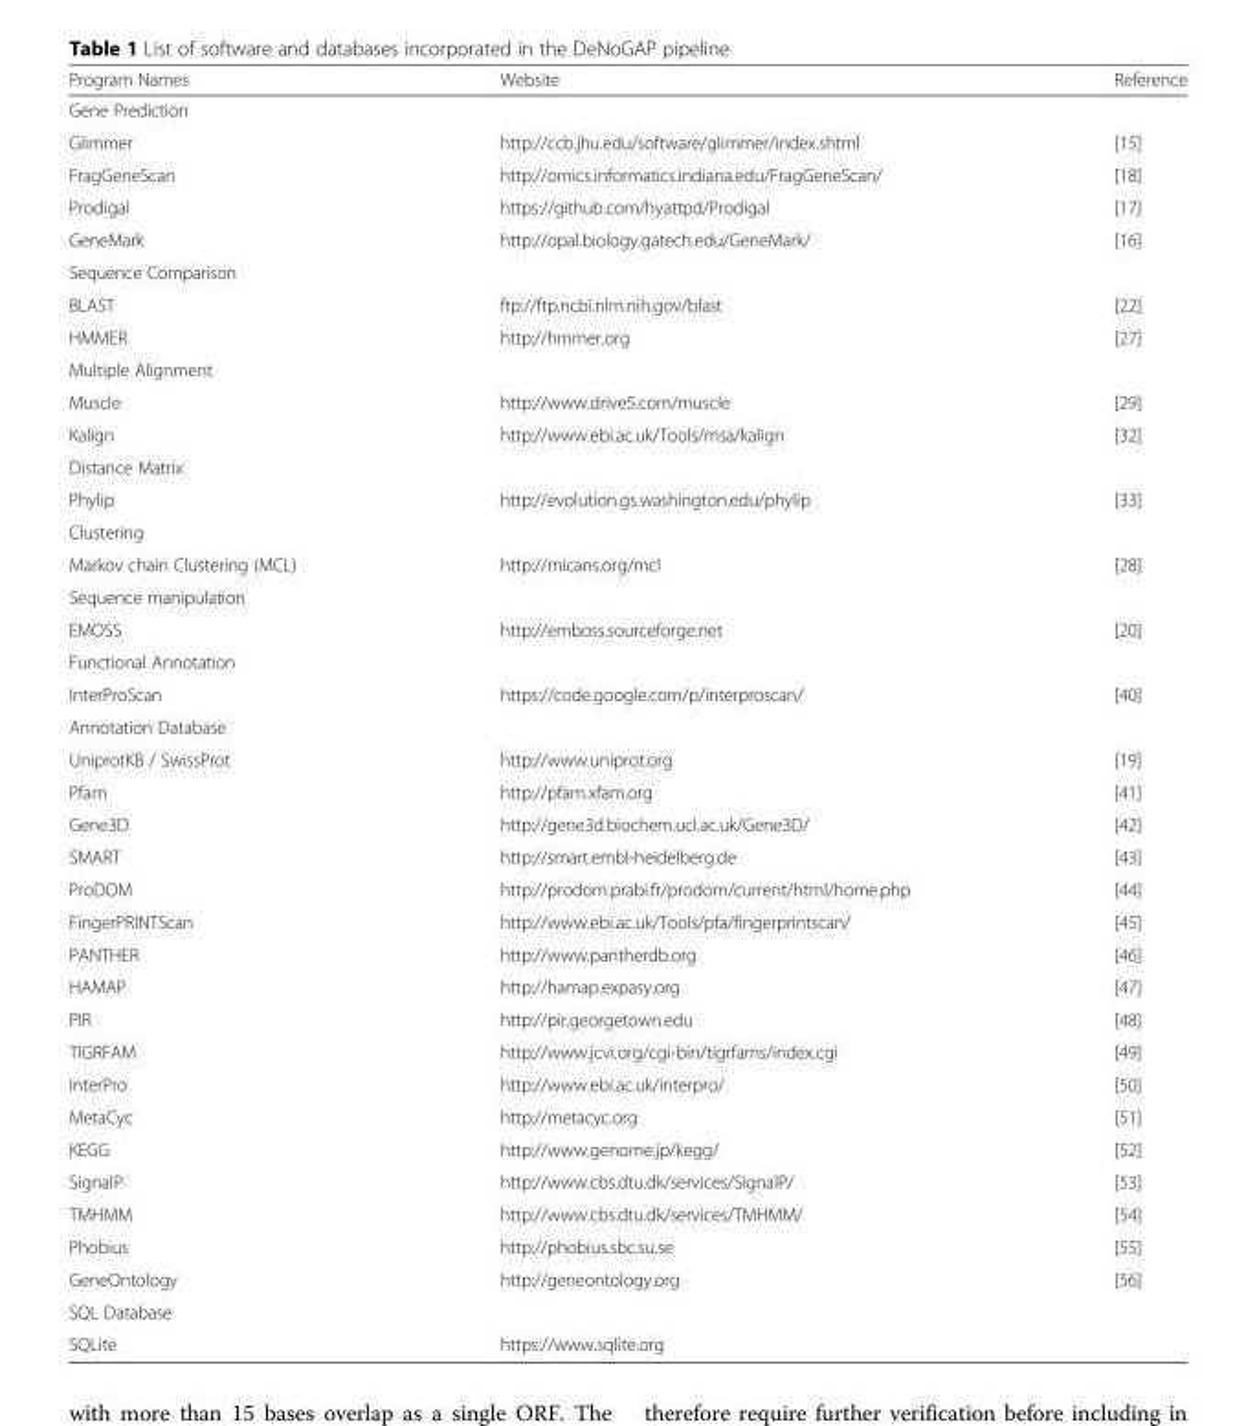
<table><thead><tr><td>Program Names</td><td>Website</td><td>Reference</td></tr></thead><tbody><tr><td colspan="3">Gene Prediction</td></tr><tr><td>Glimmer</td><td>http://ccb.jhu.edu/software/glimmer/index.shtml</td><td>[15]</td></tr><tr><td>FragGeneScan</td><td>http://omics.informatics.indiana.edu/FragGeneScan/</td><td>[18]</td></tr><tr><td>Prodigal</td><td>https://github.com/hyattpd/Prodigal</td><td>[17]</td></tr><tr><td>GeneMark</td><td>http://opal.biology.gatech.edu/GeneMark/</td><td>[16]</td></tr><tr><td colspan="3">Sequence Comparison</td></tr><tr><td>BLAST</td><td>ftp://ftp.ncbi.nlm.nih.gov/blast</td><td>[22]</td></tr><tr><td>HMMER</td><td>http://hmmer.org</td><td>[27]</td></tr><tr><td colspan="3">Multiple Alignment</td></tr><tr><td>Muscle</td><td>http://www.drive5.com/muscle</td><td>[29]</td></tr><tr><td>Kalign</td><td>http://www.ebi.ac.uk/Tools/msa/kalign</td><td>[32]</td></tr><tr><td colspan="3">Distance Matrix</td></tr><tr><td>Phylip</td><td>http://evolution.gs.washington.edu/phylip</td><td>[33]</td></tr><tr><td colspan="3">Clustering</td></tr><tr><td>Markov chain Clustering (MCL)</td><td>http://micans.org/mcl</td><td>[28]</td></tr><tr><td colspan="3">Sequence manipulation</td></tr><tr><td>EMOSS</td><td>http://emboss.sourceforge.net</td><td>[20]</td></tr><tr><td colspan="3">Functional Annotation</td></tr><tr><td>InterProScan</td><td>https://code.google.com/p/interproscan/</td><td>[40]</td></tr><tr><td colspan="3">Annotation Database</td></tr><tr><td>UniprotKB / SwissProt</td><td>http://www.uniprot.org</td><td>[19]</td></tr><tr><td>Pfam</td><td>http://pfam.xfam.org</td><td>[41]</td></tr><tr><td>Gene3D</td><td>http://gene3d.biochem.ucl.ac.uk/Gene3D/</td><td>[42]</td></tr><tr><td>SMART</td><td>http://smart.embl-heidelberg.de</td><td>[43]</td></tr><tr><td>ProDOM</td><td>http://prodom.prabi.fr/prodom/current/html/home.php</td><td>[44]</td></tr><tr><td>FingerPRINTScan</td><td>http://www.ebi.ac.uk/Tools/pfa/fingerprintscan/</td><td>[45]</td></tr><tr><td>PANTHER</td><td>http://www.pantherdb.org</td><td>[46]</td></tr><tr><td>HAMAP</td><td>http://hamap.expasy.org</td><td>[47]</td></tr><tr><td>PIR</td><td>http://pir.georgetown.edu</td><td>[48]</td></tr><tr><td>TIGRFAM</td><td>http://www.jcvi.org/cgi-bin/tigrfams/index.cgi</td><td>[49]</td></tr><tr><td>InterPro</td><td>http://www.ebi.ac.uk/interpro/</td><td>[50]</td></tr><tr><td>MetaCyc</td><td>http://metacyc.org</td><td>[51]</td></tr><tr><td>KEGG</td><td>http://www.genome.jp/kegg/</td><td>[52]</td></tr><tr><td>SignalP</td><td>http://www.cbs.dtu.dk/services/SignalP/</td><td>[53]</td></tr><tr><td>TMHMM</td><td>http://www.cbs.dtu.dk/services/TMHMM/</td><td>[54]</td></tr><tr><td>Phobius</td><td>http://phobius.sbc.su.se</td><td>[55]</td></tr><tr><td>GeneOntology</td><td>http://geneontology.org</td><td>[56]</td></tr><tr><td colspan="3">SQL Database</td></tr><tr><td>SQLite</td><td>https://www.sqlite.org</td><td></td></tr></tbody></table>